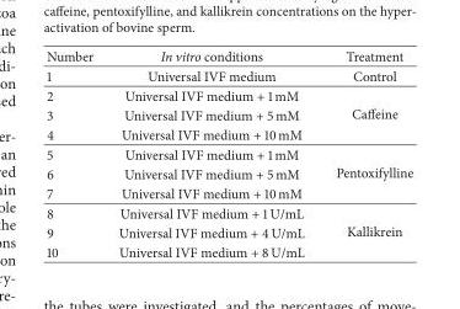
<table><thead><tr><td>Number</td><td>In vitro conditions</td><td>Treatment</td></tr></thead><tbody><tr><td>1</td><td>Universal IVF medium</td><td>Control</td></tr><tr><td>2</td><td>Universal IVF medium + 1 mM</td><td rowspan="3">Caffeine</td></tr><tr><td>3</td><td>Universal IVF medium + 5 mM</td></tr><tr><td>4</td><td>Universal IVF medium + 10 mM</td></tr><tr><td>5</td><td>Universal IVF medium + 1 mM</td><td rowspan="3">Pentoxifylline</td></tr><tr><td>6</td><td>Universal IVF medium + 5 mM</td></tr><tr><td>7</td><td>Universal IVF medium + 10 mM</td></tr><tr><td>8</td><td>Universal IVF medium + 1 U/mL</td><td rowspan="3">Kallikrein</td></tr><tr><td>9</td><td>Universal IVF medium + 4 U/mL</td></tr><tr><td>10</td><td>Universal IVF medium + 8 U/mL</td></tr></tbody></table>